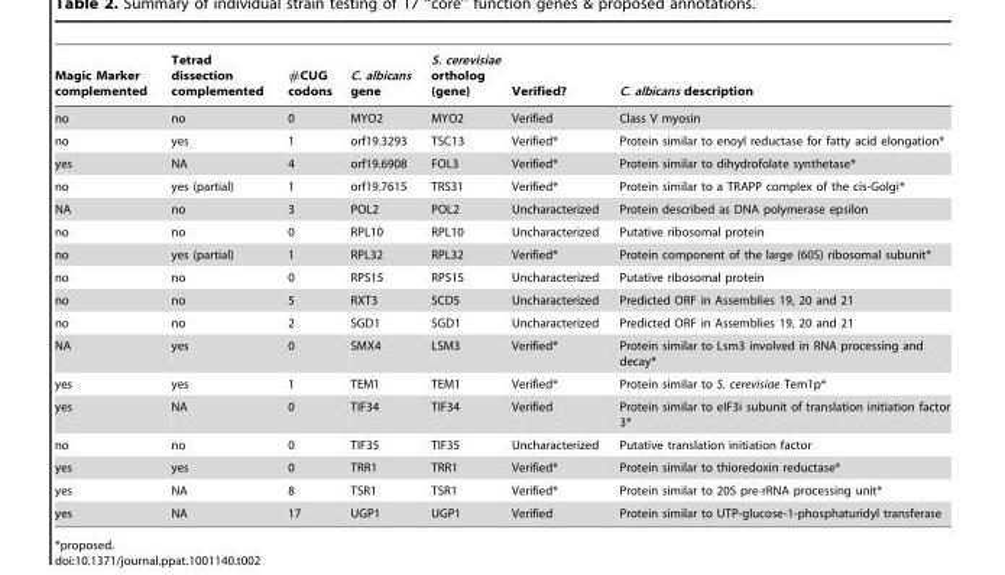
<table><thead><tr><td>Magic Marker complemented</td><td>Tetrad dissection complemented</td><td>#CUG codons</td><td>C. albicans gene</td><td>S. cerevisiae ortholog (gene)</td><td>Verified?</td><td>C. albicans description</td></tr></thead><tbody><tr><td>no</td><td>no</td><td>0</td><td>MYO2</td><td>MYO2</td><td>Verified</td><td>Class V myosin</td></tr><tr><td>no</td><td>yes</td><td>1</td><td>orf19.3293</td><td>TSC13</td><td>Verified*</td><td>Protein similar to enoyl reductase for fatty acid elongation*</td></tr><tr><td>yes</td><td>NA</td><td>4</td><td>orf19.6908</td><td>FOL3</td><td>Verified*</td><td>Protein similar to dihydrofolate synthetase*</td></tr><tr><td>no</td><td>yes (partial)</td><td>1</td><td>orf19.7615</td><td>TRS31</td><td>Verified*</td><td>Protein similar to a TRAPP complex of the cis-Golgi*</td></tr><tr><td>NA</td><td>no</td><td>3</td><td>POL2</td><td>POL2</td><td>Uncharacterized</td><td>Protein described as DNA polymerase epsilon</td></tr><tr><td>no</td><td>no</td><td>0</td><td>RPL10</td><td>RPL10</td><td>Uncharacterized</td><td>Putative ribosomal protein</td></tr><tr><td>no</td><td>yes (partial)</td><td>1</td><td>RPL32</td><td>RPL32</td><td>Verified*</td><td>Protein component of the large (60S) ribosomal subunit*</td></tr><tr><td>no</td><td>no</td><td>0</td><td>RPS15</td><td>RPS15</td><td>Uncharacterized</td><td>Putative ribosomal protein</td></tr><tr><td>no</td><td>no</td><td>5</td><td>RXT3</td><td>SCD5</td><td>Uncharacterized</td><td>Predicted ORF in Assemblies 19, 20 and 21</td></tr><tr><td>no</td><td>no</td><td>2</td><td>SGD1</td><td>SGD1</td><td>Uncharacterized</td><td>Predicted ORF in Assemblies 19, 20 and 21</td></tr><tr><td>NA</td><td>yes</td><td>0</td><td>SMX4</td><td>LSM3</td><td>Verified*</td><td>Protein similar to Lsm3 involved in RNA processing and decay*</td></tr><tr><td>yes</td><td>yes</td><td>1</td><td>TEM1</td><td>TEM1</td><td>Verified*</td><td>Protein similar to S. cerevisiae Tem1p*</td></tr><tr><td>yes</td><td>NA</td><td>0</td><td>TIF34</td><td>TIF34</td><td>Verified</td><td>Protein similar to eIF3i subunit of translation initiation factor 3*</td></tr><tr><td>no</td><td>no</td><td>0</td><td>TIF35</td><td>TIF35</td><td>Uncharacterized</td><td>Putative translation initiation factor</td></tr><tr><td>yes</td><td>yes</td><td>0</td><td>TRR1</td><td>TRR1</td><td>Verified*</td><td>Protein similar to thioredoxin reductase*</td></tr><tr><td>yes</td><td>NA</td><td>8</td><td>TSR1</td><td>TSR1</td><td>Verified*</td><td>Protein similar to 20S pre-rRNA processing unit*</td></tr><tr><td>yes</td><td>NA</td><td>17</td><td>UGP1</td><td>UGP1</td><td>Verified</td><td>Protein similar to UTP-glucose-1-phosphaturidyl transferase</td></tr></tbody></table>